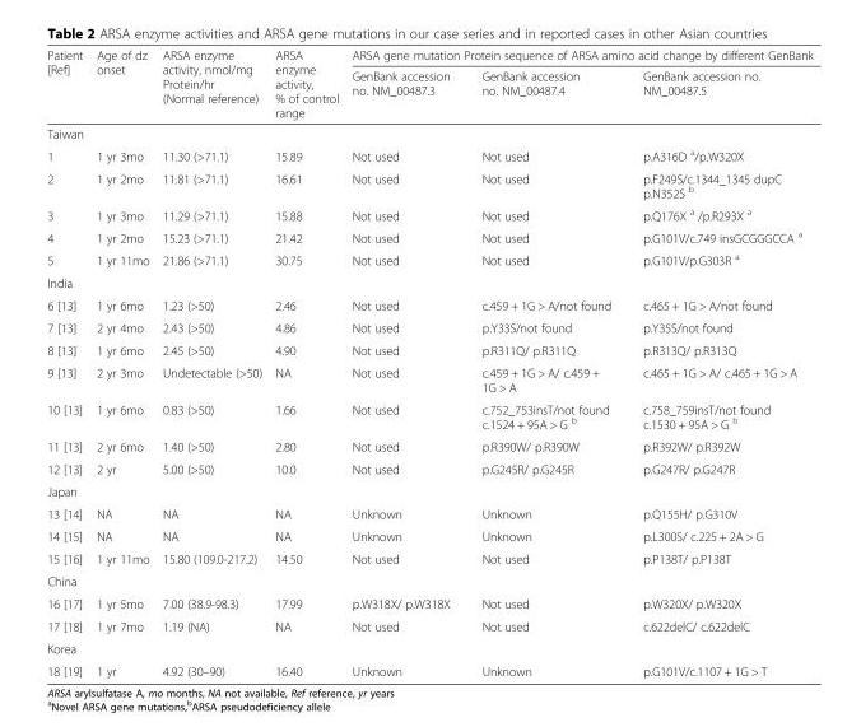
<table><thead><tr><td rowspan="2">Patient [Ref]</td><td rowspan="2">Age of dz onset</td><td rowspan="2">ARSA enzyme activity, nmol/mg Protein/hr (Normal reference)</td><td rowspan="2">ARSA enzyme activity, % of control range</td><td colspan="3">ARSA gene mutation Protein sequence of ARSA amino acid change by different GenBank</td></tr><tr><td>GenBank accession no. NM_00487.3</td><td>GenBank accession no. NM_00487.4</td><td>GenBank accession no. NM_00487.5</td></tr></thead><tbody><tr><td colspan="7">Taiwan</td></tr><tr><td>1</td><td>1 yr 3mo</td><td>11.30 (&gt;71.1)</td><td>15.89</td><td>Not used</td><td>Not used</td><td>p.A316D <sup>a</sup>/p.W320X</td></tr><tr><td>2</td><td>1 yr 2mo</td><td>11.81 (&gt;71.1)</td><td>16.61</td><td>Not used</td><td>Not used</td><td>p.F249S/c.1344_1345 dupC p.N352S <sup>b</sup></td></tr><tr><td>3</td><td>1 yr 3mo</td><td>11.29 (&gt;71.1)</td><td>15.88</td><td>Not used</td><td>Not used</td><td>p.Q176X <sup>a</sup> /p.R293X <sup>a</sup></td></tr><tr><td>4</td><td>1 yr 2mo</td><td>15.23 (&gt;71.1)</td><td>21.42</td><td>Not used</td><td>Not used</td><td>p.G101V/c.749 insGCGGGCCA <sup>a</sup></td></tr><tr><td>5</td><td>1 yr 11mo</td><td>21.86 (&gt;71.1)</td><td>30.75</td><td>Not used</td><td>Not used</td><td>p.G101V/p.G303R <sup>a</sup></td></tr><tr><td colspan="7">India</td></tr><tr><td>6 [13]</td><td>1 yr 6mo</td><td>1.23 (&gt;50)</td><td>2.46</td><td>Not used</td><td>c.459 + 1G &gt; A/not found</td><td>c.465 + 1G &gt; A/not found</td></tr><tr><td>7 [13]</td><td>2 yr 4mo</td><td>2.43 (&gt;50)</td><td>4.86</td><td>Not used</td><td>p.Y33S/not found</td><td>p.Y35S/not found</td></tr><tr><td>8 [13]</td><td>1 yr 6mo</td><td>2.45 (&gt;50)</td><td>4.90</td><td>Not used</td><td>p.R311Q/ p.R311Q</td><td>p.R313Q/ p.R313Q</td></tr><tr><td>9 [13]</td><td>2 yr 3mo</td><td>Undetectable (&gt;50)</td><td>NA</td><td>Not used</td><td>c.459 + 1G &gt; A/ c.459 + 1G &gt; A</td><td>c.465 + 1G &gt; A/ c.465 + 1G &gt; A</td></tr><tr><td>10 [13]</td><td>1 yr 6mo</td><td>0.83 (&gt;50)</td><td>1.66</td><td>Not used</td><td>c.752_753insT/not found c.1524 + 95A &gt; G <sup>b</sup></td><td>c.758_759insT/not found c.1530 + 95A &gt; G <sup>b</sup></td></tr><tr><td>11 [13]</td><td>2 yr 6mo</td><td>1.40 (&gt;50)</td><td>2.80</td><td>Not used</td><td>p.R390W/ p.R390W</td><td>p.R392W/ p.R392W</td></tr><tr><td>12 [13]</td><td>2 yr</td><td>5.00 (&gt;50)</td><td>10.0</td><td>Not used</td><td>p.G245R/ p.G245R</td><td>p.G247R/ p.G247R</td></tr><tr><td colspan="7">Japan</td></tr><tr><td>13 [14]</td><td>NA</td><td>NA</td><td>NA</td><td>Unknown</td><td>Unknown</td><td>p.Q155H/ p.G310V</td></tr><tr><td>14 [15]</td><td>NA</td><td>NA</td><td>NA</td><td>Unknown</td><td>Unknown</td><td>p.L300S/ c.225 + 2A &gt; G</td></tr><tr><td>15 [16]</td><td>1 yr 11mo</td><td>15.80 (109.0-217.2)</td><td>14.50</td><td>Not used</td><td>Not used</td><td>p.P138T/ p.P138T</td></tr><tr><td colspan="7">China</td></tr><tr><td>16 [17]</td><td>1 yr 5mo</td><td>7.00 (38.9-98.3)</td><td>17.99</td><td>p.W318X/ p.W318X</td><td>Not used</td><td>p.W320X/ p.W320X</td></tr><tr><td>17 [18]</td><td>1 yr 7mo</td><td>1.19 (NA)</td><td>NA</td><td>Not used</td><td>Not used</td><td>c.622delC/ c.622delC</td></tr><tr><td colspan="7">Korea</td></tr><tr><td>18 [19]</td><td>1 yr</td><td>4.92 (30–90)</td><td>16.40</td><td>Unknown</td><td>Unknown</td><td>p.G101V/c.1107 + 1G &gt; T</td></tr></tbody></table>